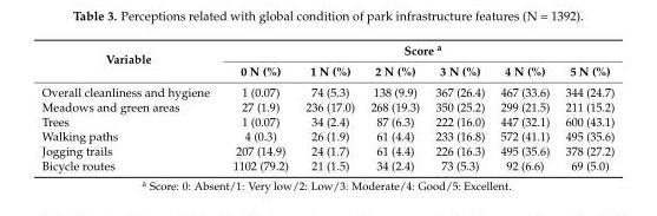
<table><thead><tr><td rowspan="2">Variable</td><td colspan="6">Score <sup>a</sup></td></tr><tr><td>0 N (%)</td><td>1 N (%)</td><td>2 N (%)</td><td>3 N (%)</td><td>4 N (%)</td><td>5 N (%)</td></tr></thead><tbody><tr><td>Overall cleanliness and hygiene</td><td>1 (0.07)</td><td>74 (5.3)</td><td>138 (9.9)</td><td>367 (26.4)</td><td>467 (33.6)</td><td>344 (24.7)</td></tr><tr><td>Meadows and green areas</td><td>27 (1.9)</td><td>236 (17.0)</td><td>268 (19.3)</td><td>350 (25.2)</td><td>299 (21.5)</td><td>211 (15.2)</td></tr><tr><td>Trees</td><td>1 (0.07)</td><td>34 (2.4)</td><td>87 (6.3)</td><td>222 (16.0)</td><td>447 (32.1)</td><td>600 (43.1)</td></tr><tr><td>Walking paths</td><td>4 (0.3)</td><td>26 (1.9)</td><td>61 (4.4)</td><td>233 (16.8)</td><td>572 (41.1)</td><td>495 (35.6)</td></tr><tr><td>Jogging trails</td><td>207 (14.9)</td><td>24 (1.7)</td><td>61 (4.4)</td><td>226 (16.3)</td><td>495 (35.6)</td><td>378 (27.2)</td></tr><tr><td>Bicycle routes</td><td>1102 (79.2)</td><td>21 (1.5)</td><td>34 (2.4)</td><td>73 (5.3)</td><td>92 (6.6)</td><td>69 (5.0)</td></tr></tbody></table>